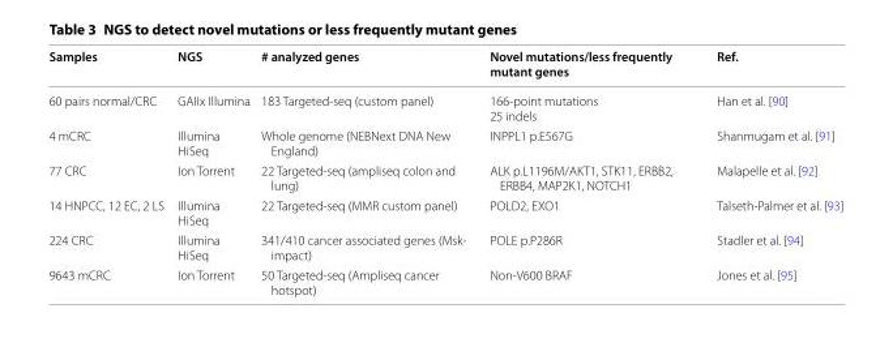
<table><thead><tr><td>Samples</td><td>NGS</td><td># analyzed genes</td><td>Novel mutations/less frequently mutant genes</td><td>Ref.</td></tr></thead><tbody><tr><td>60 pairs normal/CRC</td><td>GAIIx Illumina</td><td>183 Targeted-seq (custom panel)</td><td>166-point mutations 25 indels</td><td>Han et al. [90]</td></tr><tr><td>4 mCRC</td><td>Illumina HiSeq</td><td>Whole genome (NEBNext DNA New England)</td><td>INPPL1 p.E567G</td><td>Shanmugam et al. [91]</td></tr><tr><td>77 CRC</td><td>Ion Torrent</td><td>22 Targeted-seq (ampliseq colon and lung)</td><td>ALK p.L1196M/AKT1, STK11, ERBB2, ERBB4, MAP2K1, NOTCH1</td><td>Malapelle et al. [92]</td></tr><tr><td>14 HNPCC, 12 EC, 2 LS</td><td>Illumina HiSeq</td><td>22 Targeted-seq (MMR custom panel)</td><td>POLD2, EXO1</td><td>Talseth-Palmer et al. [93]</td></tr><tr><td>224 CRC</td><td>Illumina HiSeq</td><td>341/410 cancer associated genes (Msk- impact)</td><td>POLE p.P286R</td><td>Stadler et al. [94]</td></tr><tr><td>9643 mCRC</td><td>Ion Torrent</td><td>50 Targeted-seq (Ampliseq cancer hotspot)</td><td>Non-V600 BRAF</td><td>Jones et al. [95]</td></tr></tbody></table>